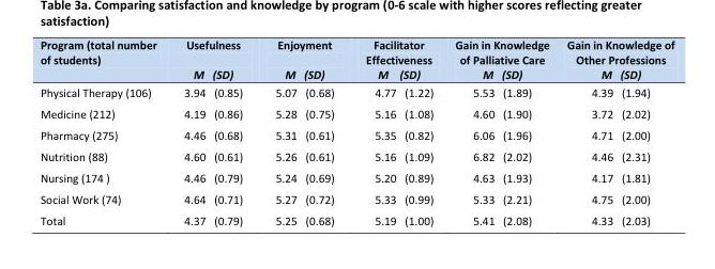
<table><thead><tr><td rowspan="2">Program (total number of students)</td><td rowspan="2">Usefulness M (SD)</td><td rowspan="2">Enjoyment M (SD)</td><td rowspan="2">Facilitator Effectiveness M (SD)</td><td rowspan="2">Gain in Knowledge of Palliative Care M (SD)</td><td rowspan="2">Gain in Knowledge of Other Professions M (SD)</td></tr><tr></tr></thead><tbody><tr><td>Physical Therapy (106)</td><td>3.94 (0.85)</td><td>5.07 (0.68)</td><td>4.77 (1.22)</td><td>5.53 (1.89)</td><td>4.39 (1.94)</td></tr><tr><td>Medicine (212)</td><td>4.19 (0.86)</td><td>5.28 (0.75)</td><td>5.16 (1.08)</td><td>4.60 (1.90)</td><td>3.72 (2.02)</td></tr><tr><td>Pharmacy (275)</td><td>4.46 (0.68)</td><td>5.31 (0.61)</td><td>5.35 (0.82)</td><td>6.06 (1.96)</td><td>4.71 (2.00)</td></tr><tr><td>Nutrition (88)</td><td>4.60 (0.61)</td><td>5.26 (0.61)</td><td>5.16 (1.09)</td><td>6.82 (2.02)</td><td>4.46 (2.31)</td></tr><tr><td>Nursing (174 )</td><td>4.46 (0.79)</td><td>5.24 (0.69)</td><td>5.20 (0.89)</td><td>4.63 (1.93)</td><td>4.17 (1.81)</td></tr><tr><td>Social Work (74)</td><td>4.64 (0.71)</td><td>5.27 (0.72)</td><td>5.33 (0.99)</td><td>5.33 (2.21)</td><td>4.75 (2.00)</td></tr><tr><td>Total</td><td>4.37 (0.79)</td><td>5.25 (0.68)</td><td>5.19 (1.00)</td><td>5.41 (2.08)</td><td>4.33 (2.03)</td></tr></tbody></table>